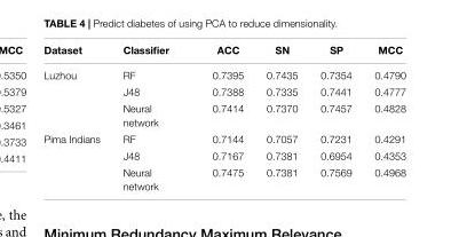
<table><thead><tr><td>Dataset</td><td>Classifier</td><td>ACC</td><td>SN</td><td>SP</td><td>MCC</td></tr></thead><tbody><tr><td rowspan="3">Luzhou</td><td>RF</td><td>0.7395</td><td>0.7435</td><td>0.7354</td><td>0.4790</td></tr><tr><td>J48</td><td>0.7388</td><td>0.7335</td><td>0.7441</td><td>0.4777</td></tr><tr><td>Neural network</td><td>0.7414</td><td>0.7370</td><td>0.7457</td><td>0.4828</td></tr><tr><td rowspan="3">Pima Indians</td><td>RF</td><td>0.7144</td><td>0.7057</td><td>0.7231</td><td>0.4291</td></tr><tr><td>J48</td><td>0.7167</td><td>0.7381</td><td>0.6954</td><td>0.4353</td></tr><tr><td>Neural network</td><td>0.7475</td><td>0.7381</td><td>0.7569</td><td>0.4968</td></tr></tbody></table>